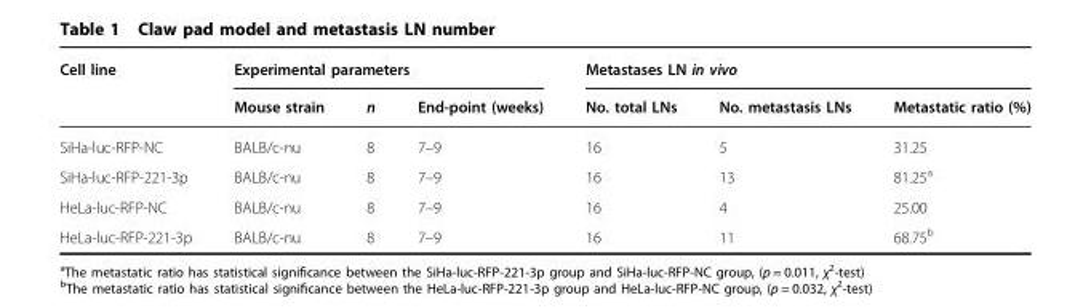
<table><thead><tr><td rowspan="2">Cell line</td><td colspan="3">Experimental parameters</td><td colspan="3">Metastases LN in vivo</td></tr><tr><td>Mouse strain</td><td>n</td><td>End-point (weeks)</td><td>No. total LNs</td><td>No. metastasis LNs</td><td>Metastatic ratio (%)</td></tr></thead><tbody><tr><td>SiHa-luc-RFP-NC</td><td>BALB/c-nu</td><td>8</td><td>7–9</td><td>16</td><td>5</td><td>31.25</td></tr><tr><td>SiHa-luc-RFP-221-3p</td><td>BALB/c-nu</td><td>8</td><td>7–9</td><td>16</td><td>13</td><td>81.25a</td></tr><tr><td>HeLa-luc-RFP-NC</td><td>BALB/c-nu</td><td>8</td><td>7–9</td><td>16</td><td>4</td><td>25.00</td></tr><tr><td>HeLa-luc-RFP-221-3p</td><td>BALB/c-nu</td><td>8</td><td>7–9</td><td>16</td><td>11</td><td>68.75b</td></tr></tbody></table>